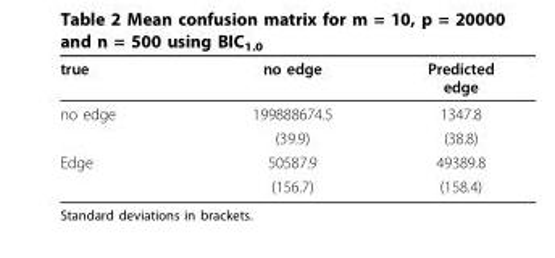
<table><thead><tr><td>true</td><td>no edge</td><td>Predicted edge</td></tr></thead><tbody><tr><td rowspan="2">no edge</td><td>199888674.5</td><td>1347.8</td></tr><tr><td>(39.9)</td><td>(38.8)</td></tr><tr><td rowspan="2">Edge</td><td>50587.9</td><td>49389.8</td></tr><tr><td>(156.7)</td><td>(158.4)</td></tr></tbody></table>